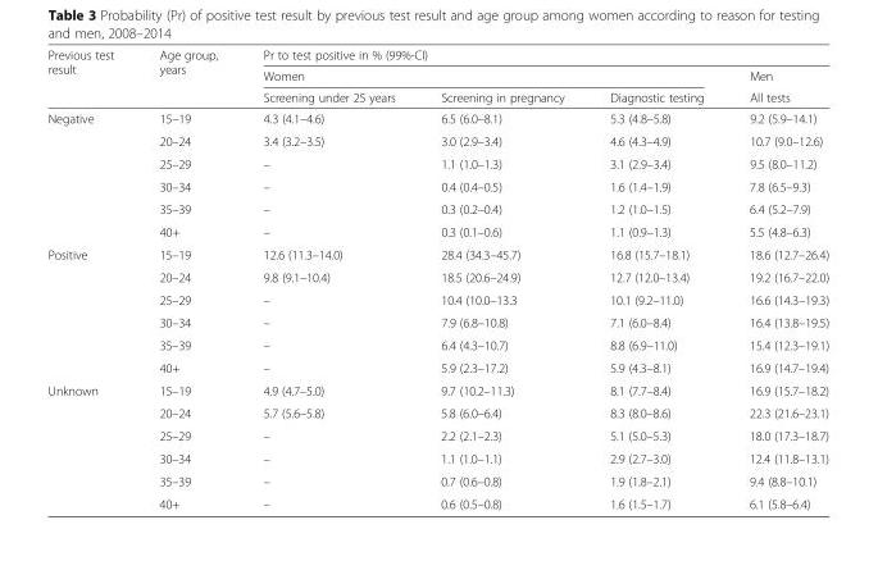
<table><thead><tr><td rowspan="3">Previous test result</td><td rowspan="3">Age group, years</td><td colspan="4">Pr to test positive in % (99%-CI)</td></tr><tr><td colspan="3">Women</td><td rowspan="2">Men All tests</td></tr><tr><td>Screening under 25 years</td><td>Screening in pregnancy</td><td>Diagnostic testing</td></tr></thead><tbody><tr><td rowspan="6">Negative</td><td>15–19</td><td>4.3 (4.1–4.6)</td><td>6.5 (6.0–8.1)</td><td>5.3 (4.8–5.8)</td><td>9.2 (5.9–14.1)</td></tr><tr><td>20–24</td><td>3.4 (3.2–3.5)</td><td>3.0 (2.9–3.4)</td><td>4.6 (4.3–4.9)</td><td>10.7 (9.0–12.6)</td></tr><tr><td>25–29</td><td>–</td><td>1.1 (1.0–1.3)</td><td>3.1 (2.9–3.4)</td><td>9.5 (8.0–11.2)</td></tr><tr><td>30–34</td><td>–</td><td>0.4 (0.4–0.5)</td><td>1.6 (1.4–1.9)</td><td>7.8 (6.5–9.3)</td></tr><tr><td>35–39</td><td>–</td><td>0.3 (0.2–0.4)</td><td>1.2 (1.0–1.5)</td><td>6.4 (5.2–7.9)</td></tr><tr><td>40+</td><td>–</td><td>0.3 (0.1–0.6)</td><td>1.1 (0.9–1.3)</td><td>5.5 (4.8–6.3)</td></tr><tr><td rowspan="6">Positive</td><td>15–19</td><td>12.6 (11.3–14.0)</td><td>28.4 (34.3–45.7)</td><td>16.8 (15.7–18.1)</td><td>18.6 (12.7–26.4)</td></tr><tr><td>20–24</td><td>9.8 (9.1–10.4)</td><td>18.5 (20.6–24.9)</td><td>12.7 (12.0–13.4)</td><td>19.2 (16.7–22.0)</td></tr><tr><td>25–29</td><td>–</td><td>10.4 (10.0–13.3</td><td>10.1 (9.2–11.0)</td><td>16.6 (14.3–19.3)</td></tr><tr><td>30–34</td><td>–</td><td>7.9 (6.8–10.8)</td><td>7.1 (6.0–8.4)</td><td>16.4 (13.8–19.5)</td></tr><tr><td>35–39</td><td>–</td><td>6.4 (4.3–10.7)</td><td>8.8 (6.9–11.0)</td><td>15.4 (12.3–19.1)</td></tr><tr><td>40+</td><td>–</td><td>5.9 (2.3–17.2)</td><td>5.9 (4.3–8.1)</td><td>16.9 (14.7–19.4)</td></tr><tr><td rowspan="6">Unknown</td><td>15–19</td><td>4.9 (4.7–5.0)</td><td>9.7 (10.2–11.3)</td><td>8.1 (7.7–8.4)</td><td>16.9 (15.7–18.2)</td></tr><tr><td>20–24</td><td>5.7 (5.6–5.8)</td><td>5.8 (6.0–6.4)</td><td>8.3 (8.0–8.6)</td><td>22.3 (21.6–23.1)</td></tr><tr><td>25–29</td><td>–</td><td>2.2 (2.1–2.3)</td><td>5.1 (5.0–5.3)</td><td>18.0 (17.3–18.7)</td></tr><tr><td>30–34</td><td>–</td><td>1.1 (1.0–1.1)</td><td>2.9 (2.7–3.0)</td><td>12.4 (11.8–13.1)</td></tr><tr><td>35–39</td><td>–</td><td>0.7 (0.6–0.8)</td><td>1.9 (1.8–2.1)</td><td>9.4 (8.8–10.1)</td></tr><tr><td>40+</td><td>–</td><td>0.6 (0.5–0.8)</td><td>1.6 (1.5–1.7)</td><td>6.1 (5.8–6.4)</td></tr></tbody></table>